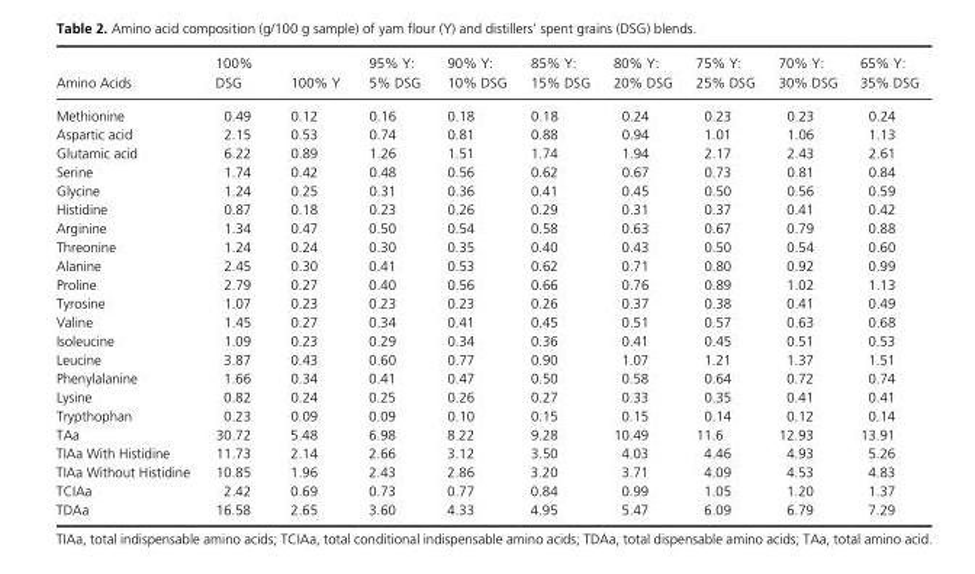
<table><thead><tr><td>Amino Acids</td><td>100% DSG</td><td>100% Y</td><td>95% Y: 5% DSG</td><td>90% Y: 10% DSG</td><td>85% Y: 15% DSG</td><td>80% Y: 20% DSG</td><td>75% Y: 25% DSG</td><td>70% Y: 30% DSG</td><td>65% Y: 35% DSG</td></tr></thead><tbody><tr><td>Methionine</td><td>0.49</td><td>0.12</td><td>0.16</td><td>0.18</td><td>0.18</td><td>0.24</td><td>0.23</td><td>0.23</td><td>0.24</td></tr><tr><td>Aspartic acid</td><td>2.15</td><td>0.53</td><td>0.74</td><td>0.81</td><td>0.88</td><td>0.94</td><td>1.01</td><td>1.06</td><td>1.13</td></tr><tr><td>Glutamic acid</td><td>6.22</td><td>0.89</td><td>1.26</td><td>1.51</td><td>1.74</td><td>1.94</td><td>2.17</td><td>2.43</td><td>2.61</td></tr><tr><td>Serine</td><td>1.74</td><td>0.42</td><td>0.48</td><td>0.56</td><td>0.62</td><td>0.67</td><td>0.73</td><td>0.81</td><td>0.84</td></tr><tr><td>Glycine</td><td>1.24</td><td>0.25</td><td>0.31</td><td>0.36</td><td>0.41</td><td>0.45</td><td>0.50</td><td>0.56</td><td>0.59</td></tr><tr><td>Histidine</td><td>0.87</td><td>0.18</td><td>0.23</td><td>0.26</td><td>0.29</td><td>0.31</td><td>0.37</td><td>0.41</td><td>0.42</td></tr><tr><td>Arginine</td><td>1.34</td><td>0.47</td><td>0.50</td><td>0.54</td><td>0.58</td><td>0.63</td><td>0.67</td><td>0.79</td><td>0.88</td></tr><tr><td>Threonine</td><td>1.24</td><td>0.24</td><td>0.30</td><td>0.35</td><td>0.40</td><td>0.43</td><td>0.50</td><td>0.54</td><td>0.60</td></tr><tr><td>Alanine</td><td>2.45</td><td>0.30</td><td>0.41</td><td>0.53</td><td>0.62</td><td>0.71</td><td>0.80</td><td>0.92</td><td>0.99</td></tr><tr><td>Proline</td><td>2.79</td><td>0.27</td><td>0.40</td><td>0.56</td><td>0.66</td><td>0.76</td><td>0.89</td><td>1.02</td><td>1.13</td></tr><tr><td>Tyrosine</td><td>1.07</td><td>0.23</td><td>0.23</td><td>0.23</td><td>0.26</td><td>0.37</td><td>0.38</td><td>0.41</td><td>0.49</td></tr><tr><td>Valine</td><td>1.45</td><td>0.27</td><td>0.34</td><td>0.41</td><td>0.45</td><td>0.51</td><td>0.57</td><td>0.63</td><td>0.68</td></tr><tr><td>Isoleucine</td><td>1.09</td><td>0.23</td><td>0.29</td><td>0.34</td><td>0.36</td><td>0.41</td><td>0.45</td><td>0.51</td><td>0.53</td></tr><tr><td>Leucine</td><td>3.87</td><td>0.43</td><td>0.60</td><td>0.77</td><td>0.90</td><td>1.07</td><td>1.21</td><td>1.37</td><td>1.51</td></tr><tr><td>Phenylalanine</td><td>1.66</td><td>0.34</td><td>0.41</td><td>0.47</td><td>0.50</td><td>0.58</td><td>0.64</td><td>0.72</td><td>0.74</td></tr><tr><td>Lysine</td><td>0.82</td><td>0.24</td><td>0.25</td><td>0.26</td><td>0.27</td><td>0.33</td><td>0.35</td><td>0.41</td><td>0.41</td></tr><tr><td>Trypthophan</td><td>0.23</td><td>0.09</td><td>0.09</td><td>0.10</td><td>0.15</td><td>0.15</td><td>0.14</td><td>0.12</td><td>0.14</td></tr><tr><td>TAa</td><td>30.72</td><td>5.48</td><td>6.98</td><td>8.22</td><td>9.28</td><td>10.49</td><td>11.6</td><td>12.93</td><td>13.91</td></tr><tr><td>TIAa With Histidine</td><td>11.73</td><td>2.14</td><td>2.66</td><td>3.12</td><td>3.50</td><td>4.03</td><td>4.46</td><td>4.93</td><td>5.26</td></tr><tr><td>TIAa Without Histidine</td><td>10.85</td><td>1.96</td><td>2.43</td><td>2.86</td><td>3.20</td><td>3.71</td><td>4.09</td><td>4.53</td><td>4.83</td></tr><tr><td>TCIAa</td><td>2.42</td><td>0.69</td><td>0.73</td><td>0.77</td><td>0.84</td><td>0.99</td><td>1.05</td><td>1.20</td><td>1.37</td></tr><tr><td>TDAa</td><td>16.58</td><td>2.65</td><td>3.60</td><td>4.33</td><td>4.95</td><td>5.47</td><td>6.09</td><td>6.79</td><td>7.29</td></tr></tbody></table>